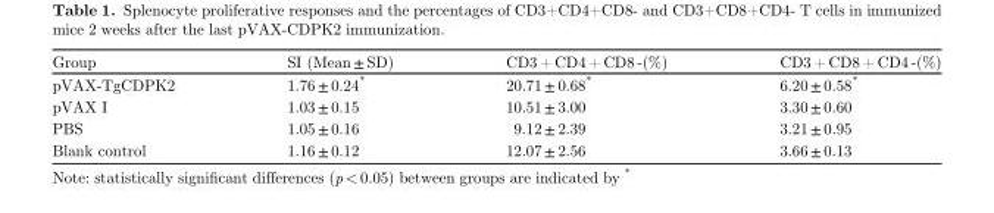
<table><thead><tr><td>Group</td><td>SI (Mean ± SD)</td><td>CD3 + CD4 + CD8 -(%)</td><td>CD3 + CD8 + CD4 -(%)</td></tr></thead><tbody><tr><td>pVAX-TgCDPK2</td><td>1.76 ± 0.24*</td><td>20.71 ± 0.68*</td><td>6.20 ± 0.58*</td></tr><tr><td>pVAX I</td><td>1.03 ± 0.15</td><td>10.51 ± 3.00</td><td>3.30 ± 0.60</td></tr><tr><td>PBS</td><td>1.05 ± 0.16</td><td>9.12 ± 2.39</td><td>3.21 ± 0.95</td></tr><tr><td>Blank control</td><td>1.16 ± 0.12</td><td>12.07 ± 2.56</td><td>3.66 ± 0.13</td></tr></tbody></table>